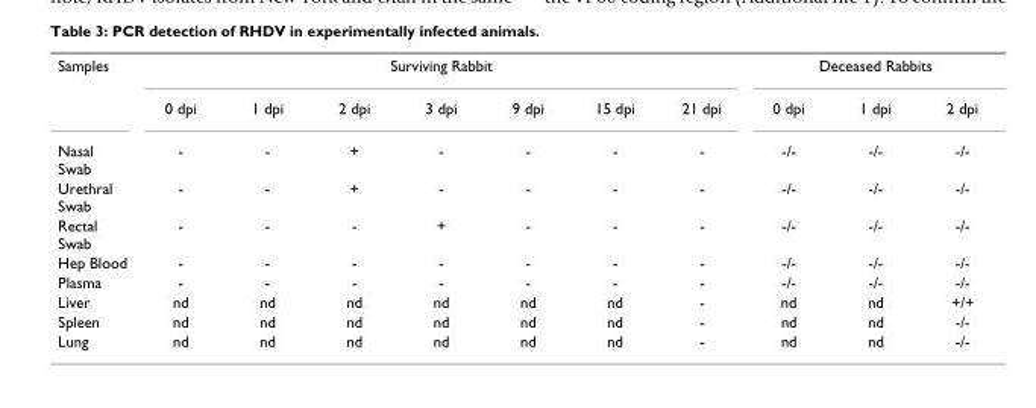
<table><tbody><tr><td rowspan="2">Samples</td><td colspan="7">Surviving Rabbit</td><td colspan="3">Deceased Rabbits</td></tr><tr><td>0 dpi</td><td>1 dpi</td><td>2 dpi</td><td>3 dpi</td><td>9 dpi</td><td>15 dpi</td><td>21 dpi</td><td>0 dpi</td><td>1 dpi</td><td>2 dpi</td></tr><tr><td>Nasal Swab</td><td>-</td><td>-</td><td>+</td><td>-</td><td>-</td><td>-</td><td>-</td><td>-/-</td><td>-/-</td><td>-/-</td></tr><tr><td>Urethral Swab</td><td>-</td><td>-</td><td>+</td><td>-</td><td>-</td><td>-</td><td>-</td><td>-/-</td><td>-/-</td><td>-/-</td></tr><tr><td>Rectal Swab</td><td>-</td><td>-</td><td>-</td><td>+</td><td>-</td><td>-</td><td>-</td><td>-/-</td><td>-/-</td><td>-/-</td></tr><tr><td>Hep Blood</td><td>-</td><td>-</td><td>-</td><td>-</td><td>-</td><td>-</td><td>-</td><td>-/-</td><td>-/-</td><td>-/-</td></tr><tr><td>Plasma</td><td>-</td><td>-</td><td>-</td><td>-</td><td>-</td><td>-</td><td>-</td><td>-/-</td><td>-/-</td><td>-/-</td></tr><tr><td>Liver</td><td>nd</td><td>nd</td><td>nd</td><td>nd</td><td>nd</td><td>nd</td><td>-</td><td>nd</td><td>nd</td><td>+/+</td></tr><tr><td>Spleen</td><td>nd</td><td>nd</td><td>nd</td><td>nd</td><td>nd</td><td>nd</td><td>-</td><td>nd</td><td>nd</td><td>-/-</td></tr><tr><td>Lung</td><td>nd</td><td>nd</td><td>nd</td><td>nd</td><td>nd</td><td>nd</td><td>-</td><td>nd</td><td>nd</td><td>-/-</td></tr></tbody></table>